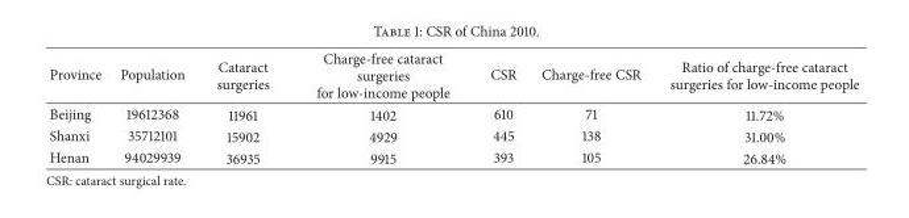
<table><thead><tr><td>Province</td><td>Population</td><td>Cataract surgeries</td><td>Charge-free cataract surgeries for low-income people</td><td>CSR</td><td>Charge-free CSR</td><td>Ratio of charge-free cataract surgeries for low-income people</td></tr></thead><tbody><tr><td>Beijing</td><td>19612368</td><td>11961</td><td>1402</td><td>610</td><td>71</td><td>11.72%</td></tr><tr><td>Shanxi</td><td>35712101</td><td>15902</td><td>4929</td><td>445</td><td>138</td><td>31.00%</td></tr><tr><td>Henan</td><td>94029939</td><td>36935</td><td>9915</td><td>393</td><td>105</td><td>26.84%</td></tr></tbody></table>